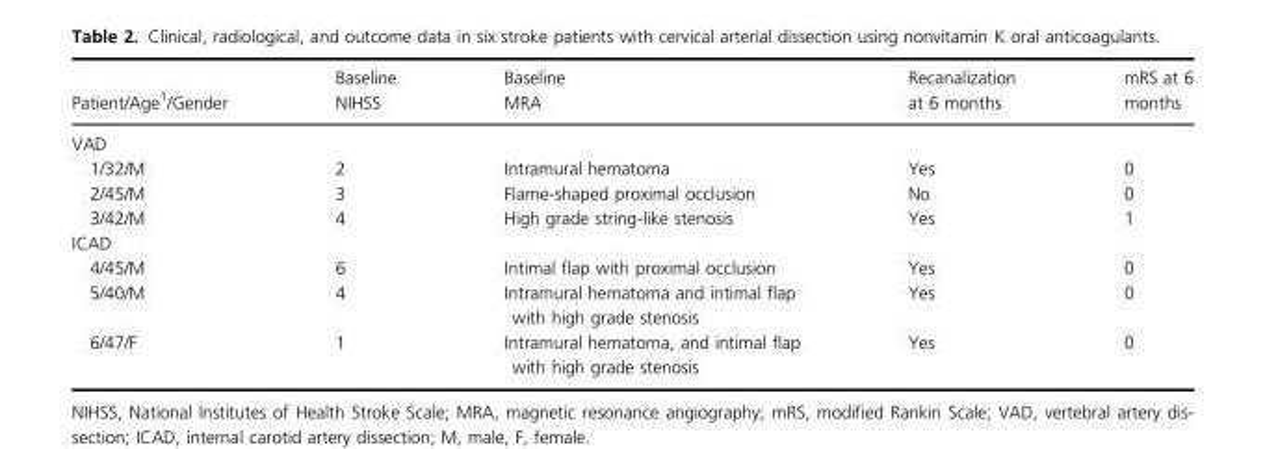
<table><thead><tr><td>Patient/Age<sup>1</sup>/Gender</td><td>Baseline NIHSS</td><td>Baseline MRA</td><td>Recanalization at 6 months</td><td>mRS at 6 months</td></tr></thead><tbody><tr><td colspan="5">VAD</td></tr><tr><td>1/32/M</td><td>2</td><td>Intramural hematoma</td><td>Yes</td><td>0</td></tr><tr><td>2/45/M</td><td>3</td><td>Flame-shaped proximal occlusion</td><td>No</td><td>0</td></tr><tr><td>3/42/M</td><td>4</td><td>High grade string-like stenosis</td><td>Yes</td><td>1</td></tr><tr><td colspan="5">ICAD</td></tr><tr><td>4/45/M</td><td>6</td><td>Intimal flap with proximal occlusion</td><td>Yes</td><td>0</td></tr><tr><td>5/40/M</td><td>4</td><td>Intramural hematoma and intimal flap with high grade stenosis</td><td>Yes</td><td>0</td></tr><tr><td>6/47/F</td><td>1</td><td>Intramural hematoma, and intimal flap with high grade stenosis</td><td>Yes</td><td>0</td></tr></tbody></table>